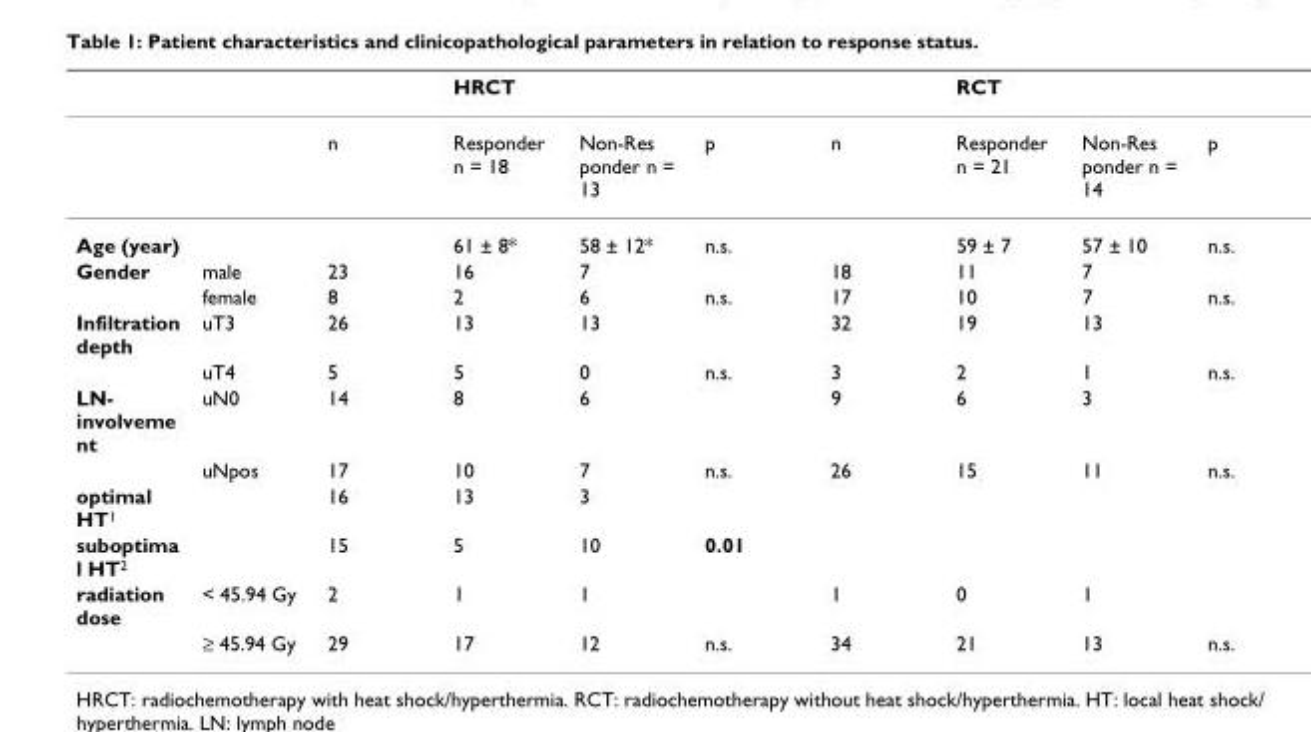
<table><thead><tr><td></td><td></td><td></td><td>HRCT</td><td></td><td></td><td></td><td>RCT</td><td></td><td></td></tr></thead><tbody><tr><td></td><td></td><td>n</td><td>Responder n = 18</td><td>Non-Res ponder n = 13</td><td>p</td><td>n</td><td>Responder n = 21</td><td>Non-Res ponder n = 14</td><td>p</td></tr><tr><td>Age (year)</td><td></td><td></td><td>61 ± 8*</td><td>58 ± 12*</td><td>n.s.</td><td></td><td>59 ± 7</td><td>57 ± 10</td><td>n.s.</td></tr><tr><td rowspan="2">Gender</td><td>male</td><td>23</td><td>16</td><td>7</td><td></td><td>18</td><td>11</td><td>7</td><td></td></tr><tr><td>female</td><td>8</td><td>2</td><td>6</td><td>n.s.</td><td>17</td><td>10</td><td>7</td><td>n.s.</td></tr><tr><td rowspan="2">Infiltration depth</td><td>uT3</td><td>26</td><td>13</td><td>13</td><td></td><td>32</td><td>19</td><td>13</td><td></td></tr><tr><td>uT4</td><td>5</td><td>5</td><td>0</td><td>n.s.</td><td>3</td><td>2</td><td>1</td><td>n.s.</td></tr><tr><td rowspan="2">LN- involveme nt</td><td>uN0</td><td>14</td><td>8</td><td>6</td><td></td><td>9</td><td>6</td><td>3</td><td></td></tr><tr><td>uNpos</td><td>17</td><td>10</td><td>7</td><td>n.s.</td><td>26</td><td>15</td><td>11</td><td>n.s.</td></tr><tr><td>optimal HT1</td><td></td><td>16</td><td>13</td><td>3</td><td></td><td></td><td></td><td></td><td></td></tr><tr><td>suboptima l HT2</td><td></td><td>15</td><td>5</td><td>10</td><td>0.01</td><td></td><td></td><td></td><td></td></tr><tr><td rowspan="2">radiation dose</td><td>&lt; 45.94 Gy</td><td>2</td><td>1</td><td>1</td><td></td><td>1</td><td>0</td><td>1</td><td></td></tr><tr><td>≥ 45.94 Gy</td><td>29</td><td>17</td><td>12</td><td>n.s.</td><td>34</td><td>21</td><td>13</td><td>n.s.</td></tr></tbody></table>